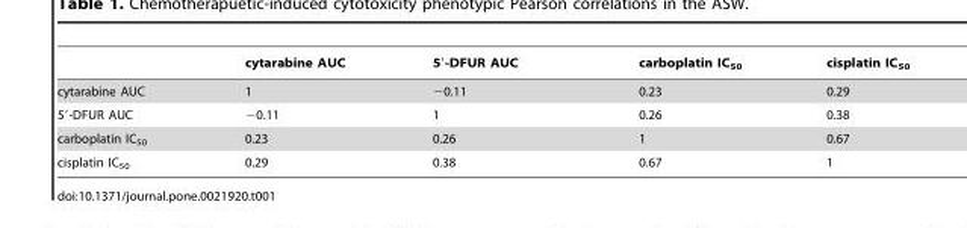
<table><thead><tr><td></td><td>cytarabine AUC</td><td>5′-DFUR AUC</td><td>carboplatin IC<sub>50</sub></td><td>cisplatin IC<sub>50</sub></td></tr></thead><tbody><tr><td>cytarabine AUC</td><td>1</td><td>−0.11</td><td>0.23</td><td>0.29</td></tr><tr><td>5′-DFUR AUC</td><td>−0.11</td><td>1</td><td>0.26</td><td>0.38</td></tr><tr><td>carboplatin IC<sub>50</sub></td><td>0.23</td><td>0.26</td><td>1</td><td>0.67</td></tr><tr><td>cisplatin IC<sub>50</sub></td><td>0.29</td><td>0.38</td><td>0.67</td><td>1</td></tr></tbody></table>